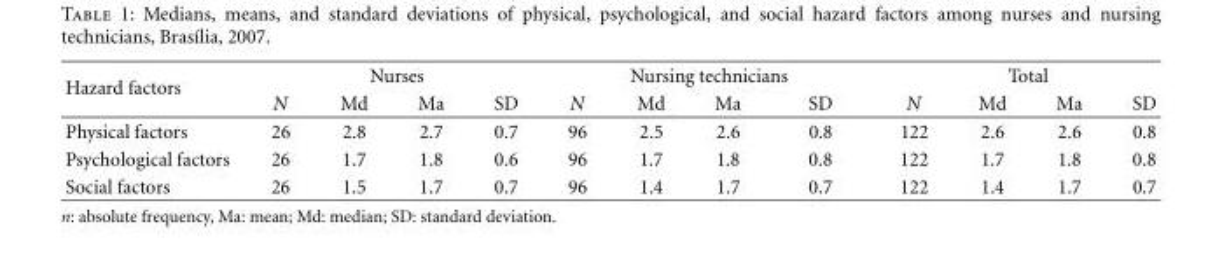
<table><thead><tr><td rowspan="2">Hazard factors</td><td colspan="4">Nurses</td><td colspan="4">Nursing technicians</td><td colspan="4">Total</td></tr><tr><td>N</td><td>Md</td><td>Ma</td><td>SD</td><td>N</td><td>Md</td><td>Ma</td><td>SD</td><td>N</td><td>Md</td><td>Ma</td><td>SD</td></tr></thead><tbody><tr><td>Physical factors</td><td>26</td><td>2.8</td><td>2.7</td><td>0.7</td><td>96</td><td>2.5</td><td>2.6</td><td>0.8</td><td>122</td><td>2.6</td><td>2.6</td><td>0.8</td></tr><tr><td>Psychological factors</td><td>26</td><td>1.7</td><td>1.8</td><td>0.6</td><td>96</td><td>1.7</td><td>1.8</td><td>0.8</td><td>122</td><td>1.7</td><td>1.8</td><td>0.8</td></tr><tr><td>Social factors</td><td>26</td><td>1.5</td><td>1.7</td><td>0.7</td><td>96</td><td>1.4</td><td>1.7</td><td>0.7</td><td>122</td><td>1.4</td><td>1.7</td><td>0.7</td></tr></tbody></table>